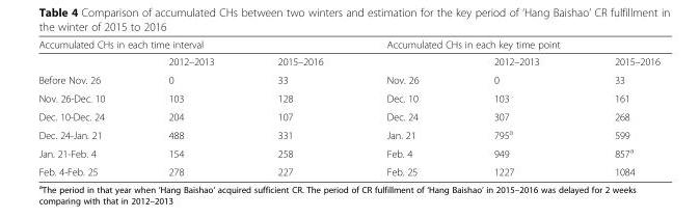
<table><thead><tr><td colspan="3">Accumulated CHs in each time interval</td><td colspan="3">Accumulated CHs in each key time point</td></tr><tr><td></td><td>2012–2013</td><td>2015–2016</td><td></td><td>2012–2013</td><td>2015–2016</td></tr></thead><tbody><tr><td>Before Nov. 26</td><td>0</td><td>33</td><td>Nov. 26</td><td>0</td><td>33</td></tr><tr><td>Nov. 26-Dec. 10</td><td>103</td><td>128</td><td>Dec. 10</td><td>103</td><td>161</td></tr><tr><td>Dec. 10-Dec. 24</td><td>204</td><td>107</td><td>Dec. 24</td><td>307</td><td>268</td></tr><tr><td>Dec. 24-Jan. 21</td><td>488</td><td>331</td><td>Jan. 21</td><td>795<sup>a</sup></td><td>599</td></tr><tr><td>Jan. 21-Feb. 4</td><td>154</td><td>258</td><td>Feb. 4</td><td>949</td><td>857<sup>a</sup></td></tr><tr><td>Feb. 4-Feb. 25</td><td>278</td><td>227</td><td>Feb. 25</td><td>1227</td><td>1084</td></tr></tbody></table>